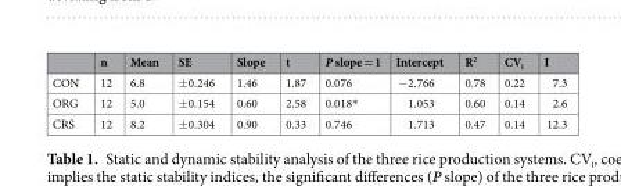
<table><thead><tr><td></td><td>n</td><td>Mean</td><td>SE</td><td>Slope</td><td>t</td><td>P slope = 1</td><td>Intercept</td><td>R<sup>2</sup></td><td>CV<sub>i</sub></td><td>I</td></tr></thead><tbody><tr><td>CON</td><td>12</td><td>6.8</td><td>±0.246</td><td>1.46</td><td>1.87</td><td>0.076</td><td>−2.766</td><td>0.78</td><td>0.22</td><td>7.3</td></tr><tr><td>ORG</td><td>12</td><td>5.0</td><td>±0.154</td><td>0.60</td><td>2.58</td><td>0.018*</td><td>1.053</td><td>0.60</td><td>0.14</td><td>2.6</td></tr><tr><td>CRS</td><td>12</td><td>8.2</td><td>±0.304</td><td>0.90</td><td>0.33</td><td>0.746</td><td>1.713</td><td>0.47</td><td>0.14</td><td>12.3</td></tr></tbody></table>